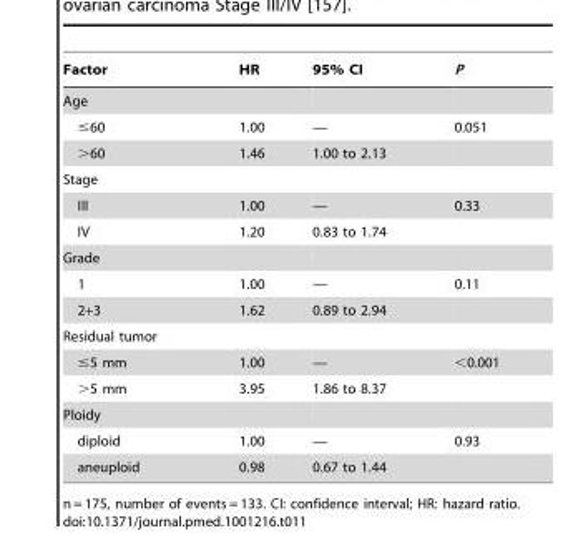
<table><thead><tr><td>Factor</td><td>HR</td><td>95% CI</td><td>P</td></tr></thead><tbody><tr><td colspan="4">Age</td></tr><tr><td>≤60</td><td>1.00</td><td>—</td><td>0.051</td></tr><tr><td>&gt;60</td><td>1.46</td><td>1.00 to 2.13</td><td></td></tr><tr><td colspan="4">Stage</td></tr><tr><td>III</td><td>1.00</td><td>—</td><td>0.33</td></tr><tr><td>IV</td><td>1.20</td><td>0.83 to 1.74</td><td></td></tr><tr><td colspan="4">Grade</td></tr><tr><td>1</td><td>1.00</td><td>—</td><td>0.11</td></tr><tr><td>2+3</td><td>1.62</td><td>0.89 to 2.94</td><td></td></tr><tr><td colspan="4">Residual tumor</td></tr><tr><td>≤5 mm</td><td>1.00</td><td>—</td><td>&lt;0.001</td></tr><tr><td>&gt;5 mm</td><td>3.95</td><td>1.86 to 8.37</td><td></td></tr><tr><td colspan="4">Ploidy</td></tr><tr><td>diploid</td><td>1.00</td><td>—</td><td>0.93</td></tr><tr><td>aneuploid</td><td>0.98</td><td>0.67 to 1.44</td><td></td></tr></tbody></table>